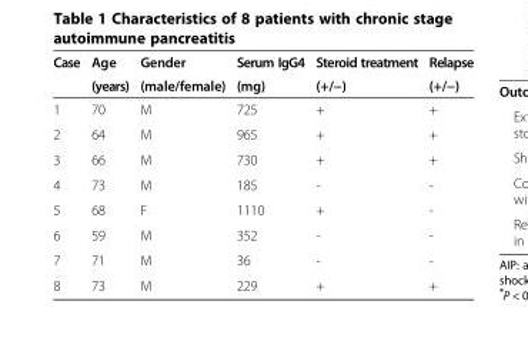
<table><thead><tr><td rowspan="2">Case</td><td rowspan="2">Age (years)</td><td rowspan="2">Gender (male/female)</td><td rowspan="2">Serum IgG4 (mg)</td><td rowspan="2">Steroid treatment (+/−)</td><td rowspan="2">Relapse (+/−)</td></tr><tr></tr></thead><tbody><tr><td>1</td><td>70</td><td>M</td><td>725</td><td>+</td><td>+</td></tr><tr><td>2</td><td>64</td><td>M</td><td>965</td><td>+</td><td>+</td></tr><tr><td>3</td><td>66</td><td>M</td><td>730</td><td>+</td><td>+</td></tr><tr><td>4</td><td>73</td><td>M</td><td>185</td><td>-</td><td>-</td></tr><tr><td>5</td><td>68</td><td>F</td><td>1110</td><td>+</td><td>-</td></tr><tr><td>6</td><td>59</td><td>M</td><td>352</td><td>-</td><td>-</td></tr><tr><td>7</td><td>71</td><td>M</td><td>36</td><td>-</td><td>-</td></tr><tr><td>8</td><td>73</td><td>M</td><td>229</td><td>+</td><td>+</td></tr></tbody></table>